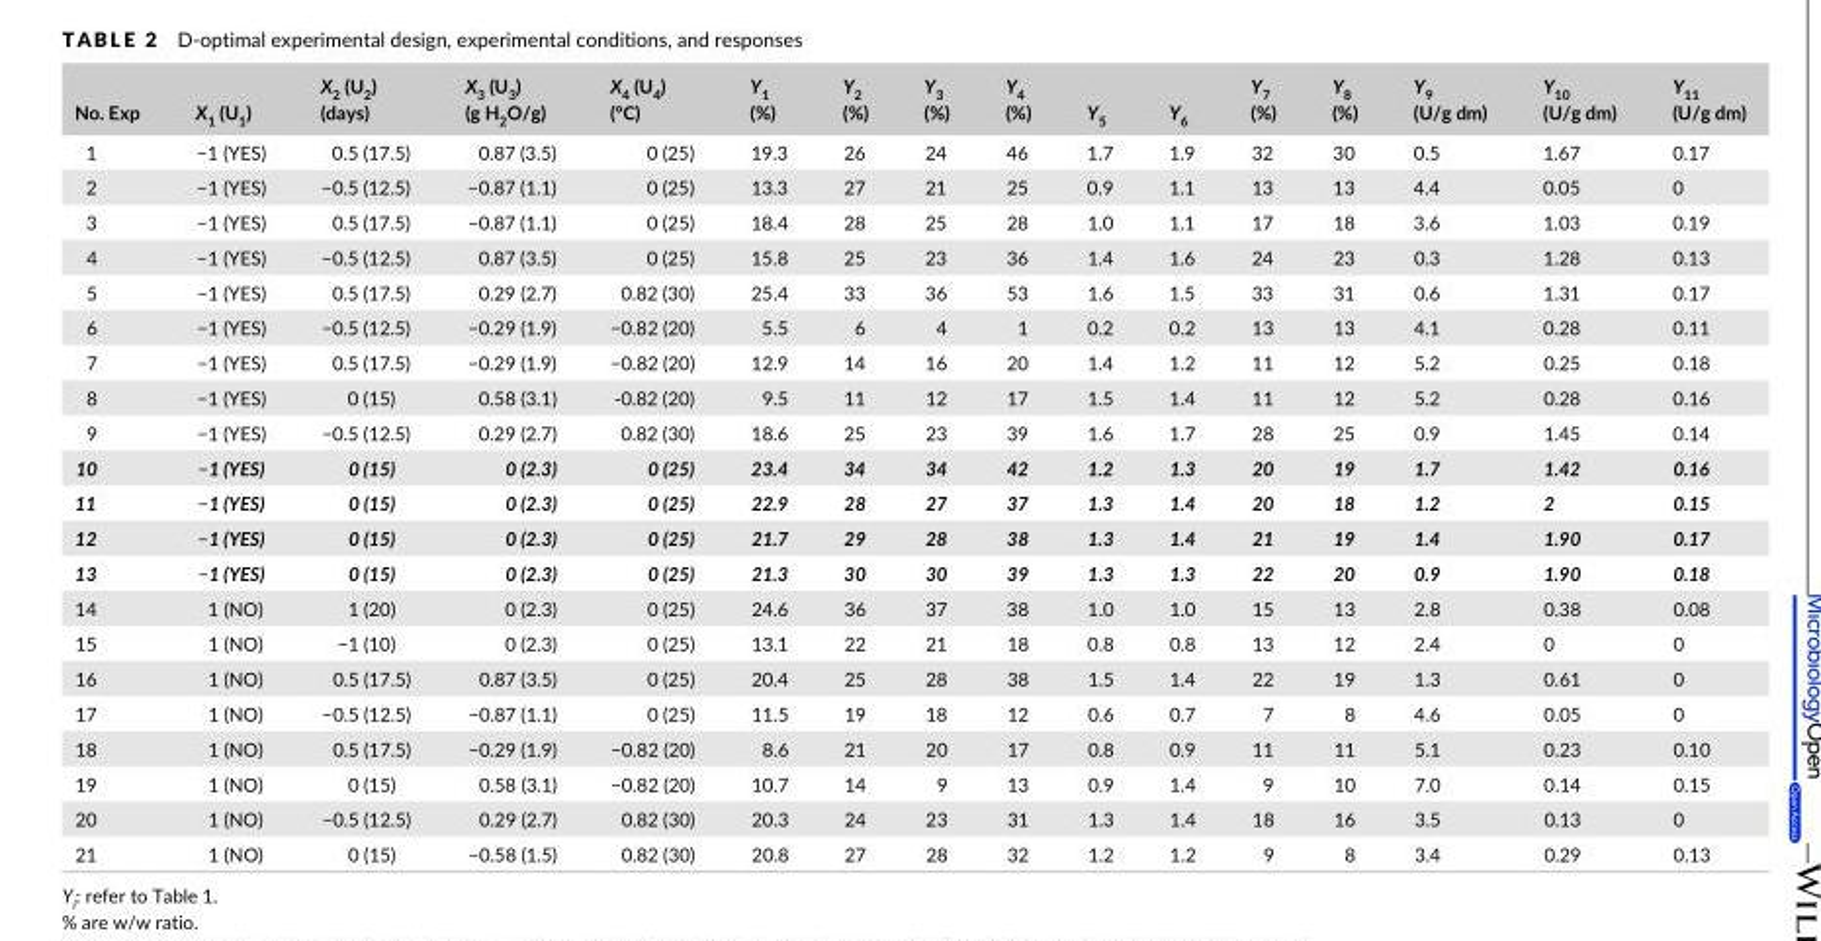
<table><thead><tr><td>No. Exp</td><td>X<sub>1</sub> (U<sub>1</sub>)</td><td>X<sub>2</sub> (U<sub>2</sub>) (days)</td><td>X<sub>3</sub> (U<sub>3</sub>) (g H<sub>2</sub>O/g)</td><td>X<sub>4</sub> (U<sub>4</sub>) (°C)</td><td>Y<sub>1</sub> (%)</td><td>Y<sub>2</sub> (%)</td><td>Y<sub>3</sub> (%)</td><td>Y<sub>4</sub> (%)</td><td>Y<sub>5</sub></td><td>Y<sub>6</sub></td><td>Y<sub>7</sub> (%)</td><td>Y<sub>8</sub> (%)</td><td>Y<sub>9</sub> (U/g dm)</td><td>Y<sub>10</sub> (U/g dm)</td><td>Y<sub>11</sub> (U/g dm)</td></tr></thead><tbody><tr><td>1</td><td>−1 (YES)</td><td>0.5 (17.5)</td><td>0.87 (3.5)</td><td>0 (25)</td><td>19.3</td><td>26</td><td>24</td><td>46</td><td>1.7</td><td>1.9</td><td>32</td><td>30</td><td>0.5</td><td>1.67</td><td>0.17</td></tr><tr><td>2</td><td>−1 (YES)</td><td>−0.5 (12.5)</td><td>−0.87 (1.1)</td><td>0 (25)</td><td>13.3</td><td>27</td><td>21</td><td>25</td><td>0.9</td><td>1.1</td><td>13</td><td>13</td><td>4.4</td><td>0.05</td><td>0</td></tr><tr><td>3</td><td>−1 (YES)</td><td>0.5 (17.5)</td><td>−0.87 (1.1)</td><td>0 (25)</td><td>18.4</td><td>28</td><td>25</td><td>28</td><td>1.0</td><td>1.1</td><td>17</td><td>18</td><td>3.6</td><td>1.03</td><td>0.19</td></tr><tr><td>4</td><td>−1 (YES)</td><td>−0.5 (12.5)</td><td>0.87 (3.5)</td><td>0 (25)</td><td>15.8</td><td>25</td><td>23</td><td>36</td><td>1.4</td><td>1.6</td><td>24</td><td>23</td><td>0.3</td><td>1.28</td><td>0.13</td></tr><tr><td>5</td><td>−1 (YES)</td><td>0.5 (17.5)</td><td>0.29 (2.7)</td><td>0.82 (30)</td><td>25.4</td><td>33</td><td>36</td><td>53</td><td>1.6</td><td>1.5</td><td>33</td><td>31</td><td>0.6</td><td>1.31</td><td>0.17</td></tr><tr><td>6</td><td>−1 (YES)</td><td>−0.5 (12.5)</td><td>−0.29 (1.9)</td><td>−0.82 (20)</td><td>5.5</td><td>6</td><td>4</td><td>1</td><td>0.2</td><td>0.2</td><td>13</td><td>13</td><td>4.1</td><td>0.28</td><td>0.11</td></tr><tr><td>7</td><td>−1 (YES)</td><td>0.5 (17.5)</td><td>−0.29 (1.9)</td><td>−0.82 (20)</td><td>12.9</td><td>14</td><td>16</td><td>20</td><td>1.4</td><td>1.2</td><td>11</td><td>12</td><td>5.2</td><td>0.25</td><td>0.18</td></tr><tr><td>8</td><td>−1 (YES)</td><td>0 (15)</td><td>0.58 (3.1)</td><td>- 0.82 (20)</td><td>9.5</td><td>11</td><td>12</td><td>17</td><td>1.5</td><td>1.4</td><td>11</td><td>12</td><td>5.2</td><td>0.28</td><td>0.16</td></tr><tr><td>9</td><td>−1 (YES)</td><td>−0.5 (12.5)</td><td>0.29 (2.7)</td><td>0.82 (30)</td><td>18.6</td><td>25</td><td>23</td><td>39</td><td>1.6</td><td>1.7</td><td>28</td><td>25</td><td>0.9</td><td>1.45</td><td>0.14</td></tr><tr><td>10</td><td>−1 (YES)</td><td>0 (15)</td><td>0 (2.3)</td><td>0 (25)</td><td>23.4</td><td>34</td><td>34</td><td>42</td><td>1.2</td><td>1.3</td><td>20</td><td>19</td><td>1.7</td><td>1.42</td><td>0.16</td></tr><tr><td>11</td><td>−1 (YES)</td><td>0 (15)</td><td>0 (2.3)</td><td>0 (25)</td><td>22.9</td><td>28</td><td>27</td><td>37</td><td>1.3</td><td>1.4</td><td>20</td><td>18</td><td>1.2</td><td>2</td><td>0.15</td></tr><tr><td>12</td><td>−1 (YES)</td><td>0 (15)</td><td>0 (2.3)</td><td>0 (25)</td><td>21.7</td><td>29</td><td>28</td><td>38</td><td>1.3</td><td>1.4</td><td>21</td><td>19</td><td>1.4</td><td>1.90</td><td>0.17</td></tr><tr><td>13</td><td>−1 (YES)</td><td>0 (15)</td><td>0 (2.3)</td><td>0 (25)</td><td>21.3</td><td>30</td><td>30</td><td>39</td><td>1.3</td><td>1.3</td><td>22</td><td>20</td><td>0.9</td><td>1.90</td><td>0.18</td></tr><tr><td>14</td><td>1 (NO)</td><td>1 (20)</td><td>0 (2.3)</td><td>0 (25)</td><td>24.6</td><td>36</td><td>37</td><td>38</td><td>1.0</td><td>1.0</td><td>15</td><td>13</td><td>2.8</td><td>0.38</td><td>0.08</td></tr><tr><td>15</td><td>1 (NO)</td><td>−1 (10)</td><td>0 (2.3)</td><td>0 (25)</td><td>13.1</td><td>22</td><td>21</td><td>18</td><td>0.8</td><td>0.8</td><td>13</td><td>12</td><td>2.4</td><td>0</td><td>0</td></tr><tr><td>16</td><td>1 (NO)</td><td>0.5 (17.5)</td><td>0.87 (3.5)</td><td>0 (25)</td><td>20.4</td><td>25</td><td>28</td><td>38</td><td>1.5</td><td>1.4</td><td>22</td><td>19</td><td>1.3</td><td>0.61</td><td>0</td></tr><tr><td>17</td><td>1 (NO)</td><td>−0.5 (12.5)</td><td>−0.87 (1.1)</td><td>0 (25)</td><td>11.5</td><td>19</td><td>18</td><td>12</td><td>0.6</td><td>0.7</td><td>7</td><td>8</td><td>4.6</td><td>0.05</td><td>0</td></tr><tr><td>18</td><td>1 (NO)</td><td>0.5 (17.5)</td><td>−0.29 (1.9)</td><td>−0.82 (20)</td><td>8.6</td><td>21</td><td>20</td><td>17</td><td>0.8</td><td>0.9</td><td>11</td><td>11</td><td>5.1</td><td>0.23</td><td>0.10</td></tr><tr><td>19</td><td>1 (NO)</td><td>0 (15)</td><td>0.58 (3.1)</td><td>−0.82 (20)</td><td>10.7</td><td>14</td><td>9</td><td>13</td><td>0.9</td><td>1.4</td><td>9</td><td>10</td><td>7.0</td><td>0.14</td><td>0.15</td></tr><tr><td>20</td><td>1 (NO)</td><td>−0.5 (12.5)</td><td>0.29 (2.7)</td><td>0.82 (30)</td><td>20.3</td><td>24</td><td>23</td><td>31</td><td>1.3</td><td>1.4</td><td>18</td><td>16</td><td>3.5</td><td>0.13</td><td>0</td></tr><tr><td>21</td><td>1 (NO)</td><td>0 (15)</td><td>−0.58 (1.5)</td><td>0.82 (30)</td><td>20.8</td><td>27</td><td>28</td><td>32</td><td>1.2</td><td>1.2</td><td>9</td><td>8</td><td>3.4</td><td>0.29</td><td>0.13</td></tr></tbody></table>